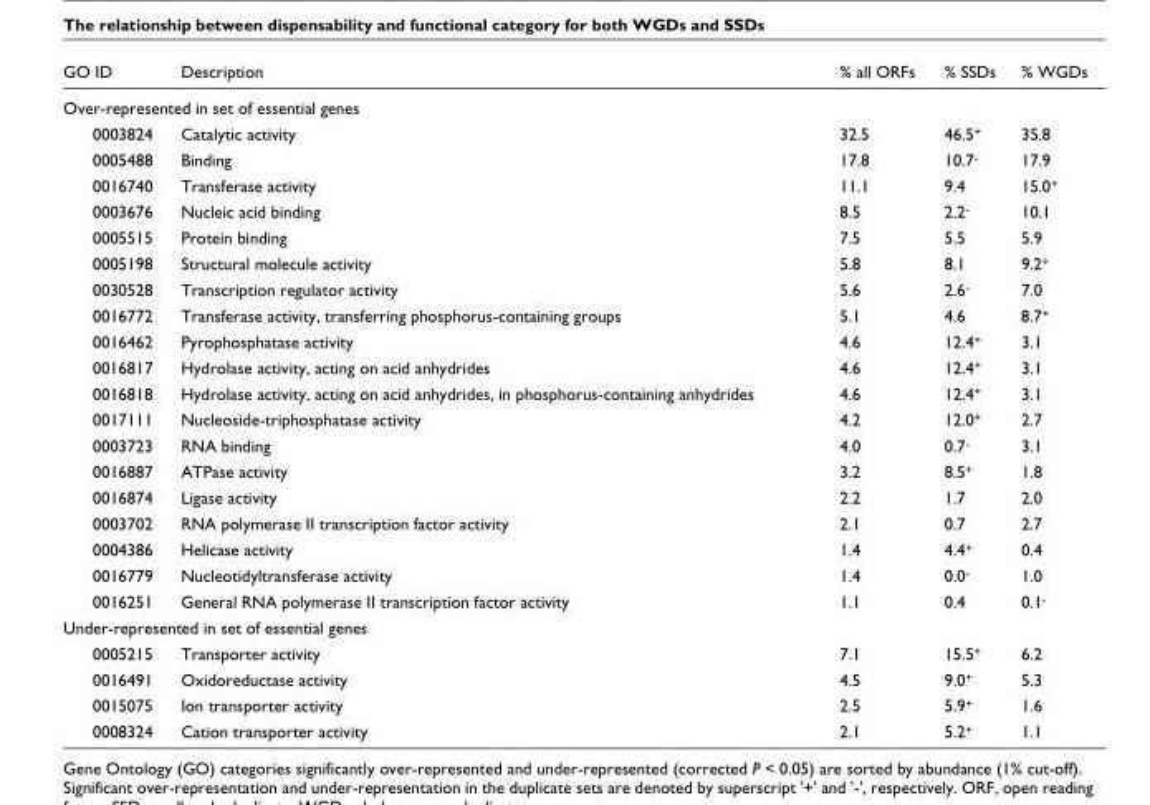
<table><thead><tr><td>GO ID</td><td>Description</td><td>% all ORFs</td><td>% SSDs</td><td>% WGDs</td></tr></thead><tbody><tr><td colspan="5">Over-represented in set of essential genes</td></tr><tr><td>0003824</td><td>Catalytic activity</td><td>32.5</td><td>46.5<sup>+</sup></td><td>35.8</td></tr><tr><td>0005488</td><td>Binding</td><td>17.8</td><td>10.7<sup>-</sup></td><td>17.9</td></tr><tr><td>0016740</td><td>Transferase activity</td><td>11.1</td><td>9.4</td><td>15.0<sup>+</sup></td></tr><tr><td>0003676</td><td>Nucleic acid binding</td><td>8.5</td><td>2.2<sup>-</sup></td><td>10.1</td></tr><tr><td>0005515</td><td>Protein binding</td><td>7.5</td><td>5.5</td><td>5.9</td></tr><tr><td>0005198</td><td>Structural molecule activity</td><td>5.8</td><td>8.1</td><td>9.2<sup>+</sup></td></tr><tr><td>0030528</td><td>Transcription regulator activity</td><td>5.6</td><td>2.6<sup>-</sup></td><td>7.0</td></tr><tr><td>0016772</td><td>Transferase activity, transferring phosphorus-containing groups</td><td>5.1</td><td>4.6</td><td>8.7<sup>+</sup></td></tr><tr><td>0016462</td><td>Pyrophosphatase activity</td><td>4.6</td><td>12.4<sup>+</sup></td><td>3.1</td></tr><tr><td>0016817</td><td>Hydrolase activity, acting on acid anhydrides</td><td>4.6</td><td>12.4<sup>+</sup></td><td>3.1</td></tr><tr><td>0016818</td><td>Hydrolase activity, acting on acid anhydrides, in phosphorus-containing anhydrides</td><td>4.6</td><td>12.4<sup>+</sup></td><td>3.1</td></tr><tr><td>0017111</td><td>Nucleoside-triphosphatase activity</td><td>4.2</td><td>12.0<sup>+</sup></td><td>2.7</td></tr><tr><td>0003723</td><td>RNA binding</td><td>4.0</td><td>0.7<sup>-</sup></td><td>3.1</td></tr><tr><td>0016887</td><td>ATPase activity</td><td>3.2</td><td>8.5<sup>+</sup></td><td>1.8</td></tr><tr><td>0016874</td><td>Ligase activity</td><td>2.2</td><td>1.7</td><td>2.0</td></tr><tr><td>0003702</td><td>RNA polymerase II transcription factor activity</td><td>2.1</td><td>0.7</td><td>2.7</td></tr><tr><td>0004386</td><td>Helicase activity</td><td>1.4</td><td>4.4<sup>+</sup></td><td>0.4</td></tr><tr><td>0016779</td><td>Nucleotidyltransferase activity</td><td>1.4</td><td>0.0<sup>-</sup></td><td>1.0</td></tr><tr><td>0016251</td><td>General RNA polymerase II transcription factor activity</td><td>1.1</td><td>0.4</td><td>0.1<sup>-</sup></td></tr><tr><td colspan="5">Under-represented in set of essential genes</td></tr><tr><td>0005215</td><td>Transporter activity</td><td>7.1</td><td>15.5<sup>+</sup></td><td>6.2</td></tr><tr><td>0016491</td><td>Oxidoreductase activity</td><td>4.5</td><td>9.0<sup>+</sup></td><td>5.3</td></tr><tr><td>0015075</td><td>Ion transporter activity</td><td>2.5</td><td>5.9<sup>+</sup></td><td>1.6</td></tr><tr><td>0008324</td><td>Cation transporter activity</td><td>2.1</td><td>5.2<sup>+</sup></td><td>1.1</td></tr></tbody></table>